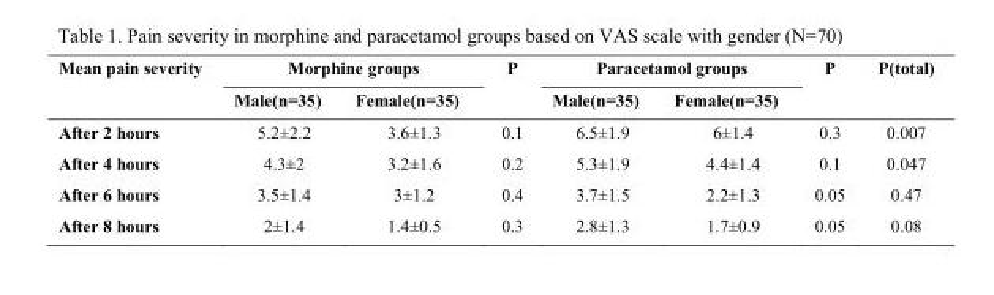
<table><thead><tr><td rowspan="2">Mean pain severity</td><td colspan="2">Morphine groups</td><td rowspan="2">P</td><td colspan="2">Paracetamol groups</td><td rowspan="2">P</td><td rowspan="2">P(total)</td></tr><tr><td>Male(n=35)</td><td>Female(n=35)</td><td>Male(n=35)</td><td>Female(n=35)</td></tr></thead><tbody><tr><td>After 2 hours</td><td>5.2±2.2</td><td>3.6±1.3</td><td>0.1</td><td>6.5±1.9</td><td>6±1.4</td><td>0.3</td><td>0.007</td></tr><tr><td>After 4 hours</td><td>4.3±2</td><td>3.2±1.6</td><td>0.2</td><td>5.3±1.9</td><td>4.4±1.4</td><td>0.1</td><td>0.047</td></tr><tr><td>After 6 hours</td><td>3.5±1.4</td><td>3±1.2</td><td>0.4</td><td>3.7±1.5</td><td>2.2±1.3</td><td>0.05</td><td>0.47</td></tr><tr><td>After 8 hours</td><td>2±1.4</td><td>1.4±0.5</td><td>0.3</td><td>2.8±1.3</td><td>1.7±0.9</td><td>0.05</td><td>0.08</td></tr></tbody></table>